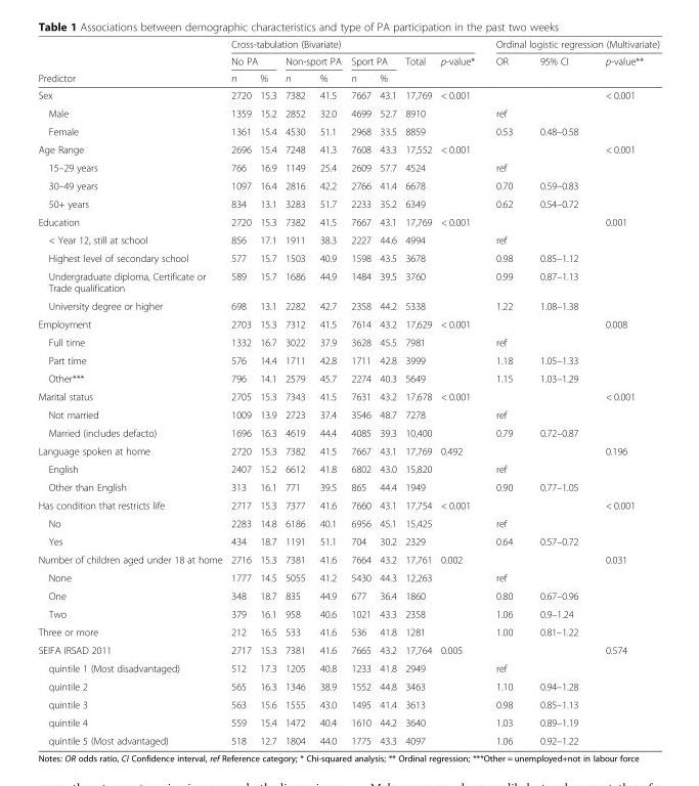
<table><thead><tr><td rowspan="3">Predictor</td><td colspan="8">Cross-tabulation (Bivariate)</td><td colspan="3">Ordinal logistic regression (Multivariate)</td></tr><tr><td colspan="2">No PA</td><td colspan="2">Non-sport PA</td><td colspan="2">Sport PA</td><td rowspan="2">Total</td><td rowspan="2">p-value*</td><td rowspan="2">OR</td><td rowspan="2">95% CI</td><td rowspan="2">p-value**</td></tr><tr><td>n</td><td>%</td><td>n</td><td>%</td><td>n</td><td>%</td></tr></thead><tbody><tr><td>Sex</td><td>2720</td><td>15.3</td><td>7382</td><td>41.5</td><td>7667</td><td>43.1</td><td>17,769</td><td>&lt; 0.001</td><td></td><td></td><td>&lt; 0.001</td></tr><tr><td>Male</td><td>1359</td><td>15.2</td><td>2852</td><td>32.0</td><td>4699</td><td>52.7</td><td>8910</td><td></td><td>ref</td><td></td><td></td></tr><tr><td>Female</td><td>1361</td><td>15.4</td><td>4530</td><td>51.1</td><td>2968</td><td>33.5</td><td>8859</td><td></td><td>0.53</td><td>0.48–0.58</td><td></td></tr><tr><td>Age Range</td><td>2696</td><td>15.4</td><td>7248</td><td>41.3</td><td>7608</td><td>43.3</td><td>17,552</td><td>&lt; 0.001</td><td></td><td></td><td>&lt; 0.001</td></tr><tr><td>15–29 years</td><td>766</td><td>16.9</td><td>1149</td><td>25.4</td><td>2609</td><td>57.7</td><td>4524</td><td></td><td>ref</td><td></td><td></td></tr><tr><td>30–49 years</td><td>1097</td><td>16.4</td><td>2816</td><td>42.2</td><td>2766</td><td>41.4</td><td>6678</td><td></td><td>0.70</td><td>0.59–0.83</td><td></td></tr><tr><td>50+ years</td><td>834</td><td>13.1</td><td>3283</td><td>51.7</td><td>2233</td><td>35.2</td><td>6349</td><td></td><td>0.62</td><td>0.54–0.72</td><td></td></tr><tr><td>Education</td><td>2720</td><td>15.3</td><td>7382</td><td>41.5</td><td>7667</td><td>43.1</td><td>17,769</td><td>&lt; 0.001</td><td></td><td></td><td>0.001</td></tr><tr><td>&lt; Year 12, still at school</td><td>856</td><td>17.1</td><td>1911</td><td>38.3</td><td>2227</td><td>44.6</td><td>4994</td><td></td><td>ref</td><td></td><td></td></tr><tr><td>Highest level of secondary school</td><td>577</td><td>15.7</td><td>1503</td><td>40.9</td><td>1598</td><td>43.5</td><td>3678</td><td></td><td>0.98</td><td>0.85–1.12</td><td></td></tr><tr><td>Undergraduate diploma, Certificate or Trade qualification</td><td>589</td><td>15.7</td><td>1686</td><td>44.9</td><td>1484</td><td>39.5</td><td>3760</td><td></td><td>0.99</td><td>0.87–1.13</td><td></td></tr><tr><td>University degree or higher</td><td>698</td><td>13.1</td><td>2282</td><td>42.7</td><td>2358</td><td>44.2</td><td>5338</td><td></td><td>1.22</td><td>1.08–1.38</td><td></td></tr><tr><td>Employment</td><td>2703</td><td>15.3</td><td>7312</td><td>41.5</td><td>7614</td><td>43.2</td><td>17,629</td><td>&lt; 0.001</td><td></td><td></td><td>0.008</td></tr><tr><td>Full time</td><td>1332</td><td>16.7</td><td>3022</td><td>37.9</td><td>3628</td><td>45.5</td><td>7981</td><td></td><td>ref</td><td></td><td></td></tr><tr><td>Part time</td><td>576</td><td>14.4</td><td>1711</td><td>42.8</td><td>1711</td><td>42.8</td><td>3999</td><td></td><td>1.18</td><td>1.05–1.33</td><td></td></tr><tr><td>Other***</td><td>796</td><td>14.1</td><td>2579</td><td>45.7</td><td>2274</td><td>40.3</td><td>5649</td><td></td><td>1.15</td><td>1.03–1.29</td><td></td></tr><tr><td>Marital status</td><td>2705</td><td>15.3</td><td>7343</td><td>41.5</td><td>7631</td><td>43.2</td><td>17,678</td><td>&lt; 0.001</td><td></td><td></td><td>&lt; 0.001</td></tr><tr><td>Not married</td><td>1009</td><td>13.9</td><td>2723</td><td>37.4</td><td>3546</td><td>48.7</td><td>7278</td><td></td><td>ref</td><td></td><td></td></tr><tr><td>Married (includes defacto)</td><td>1696</td><td>16.3</td><td>4619</td><td>44.4</td><td>4085</td><td>39.3</td><td>10,400</td><td></td><td>0.79</td><td>0.72–0.87</td><td></td></tr><tr><td>Language spoken at home</td><td>2720</td><td>15.3</td><td>7382</td><td>41.5</td><td>7667</td><td>43.1</td><td>17,769</td><td>0.492</td><td></td><td></td><td>0.196</td></tr><tr><td>English</td><td>2407</td><td>15.2</td><td>6612</td><td>41.8</td><td>6802</td><td>43.0</td><td>15,820</td><td></td><td>ref</td><td></td><td></td></tr><tr><td>Other than English</td><td>313</td><td>16.1</td><td>771</td><td>39.5</td><td>865</td><td>44.4</td><td>1949</td><td></td><td>0.90</td><td>0.77–1.05</td><td></td></tr><tr><td>Has condition that restricts life</td><td>2717</td><td>15.3</td><td>7377</td><td>41.6</td><td>7660</td><td>43.1</td><td>17,754</td><td>&lt; 0.001</td><td></td><td></td><td>&lt; 0.001</td></tr><tr><td>No</td><td>2283</td><td>14.8</td><td>6186</td><td>40.1</td><td>6956</td><td>45.1</td><td>15,425</td><td></td><td>ref</td><td></td><td></td></tr><tr><td>Yes</td><td>434</td><td>18.7</td><td>1191</td><td>51.1</td><td>704</td><td>30.2</td><td>2329</td><td></td><td>0.64</td><td>0.57–0.72</td><td></td></tr><tr><td>Number of children aged under 18 at home</td><td>2716</td><td>15.3</td><td>7381</td><td>41.6</td><td>7664</td><td>43.2</td><td>17,761</td><td>0.002</td><td></td><td></td><td>0.031</td></tr><tr><td>None</td><td>1777</td><td>14.5</td><td>5055</td><td>41.2</td><td>5430</td><td>44.3</td><td>12,263</td><td></td><td>ref</td><td></td><td></td></tr><tr><td>One</td><td>348</td><td>18.7</td><td>835</td><td>44.9</td><td>677</td><td>36.4</td><td>1860</td><td></td><td>0.80</td><td>0.67–0.96</td><td></td></tr><tr><td>Two</td><td>379</td><td>16.1</td><td>958</td><td>40.6</td><td>1021</td><td>43.3</td><td>2358</td><td></td><td>1.06</td><td>0.9–1.24</td><td></td></tr><tr><td>Three or more</td><td>212</td><td>16.5</td><td>533</td><td>41.6</td><td>536</td><td>41.8</td><td>1281</td><td></td><td>1.00</td><td>0.81–1.22</td><td></td></tr><tr><td>SEIFA IRSAD 2011</td><td>2717</td><td>15.3</td><td>7381</td><td>41.6</td><td>7665</td><td>43.2</td><td>17,764</td><td>0.005</td><td></td><td></td><td>0.574</td></tr><tr><td>quintile 1 (Most disadvantaged)</td><td>512</td><td>17.3</td><td>1205</td><td>40.8</td><td>1233</td><td>41.8</td><td>2949</td><td></td><td>ref</td><td></td><td></td></tr><tr><td>quintile 2</td><td>565</td><td>16.3</td><td>1346</td><td>38.9</td><td>1552</td><td>44.8</td><td>3463</td><td></td><td>1.10</td><td>0.94–1.28</td><td></td></tr><tr><td>quintile 3</td><td>563</td><td>15.6</td><td>1555</td><td>43.0</td><td>1495</td><td>41.4</td><td>3613</td><td></td><td>0.98</td><td>0.85–1.13</td><td></td></tr><tr><td>quintile 4</td><td>559</td><td>15.4</td><td>1472</td><td>40.4</td><td>1610</td><td>44.2</td><td>3640</td><td></td><td>1.03</td><td>0.89–1.19</td><td></td></tr><tr><td>quintile 5 (Most advantaged)</td><td>518</td><td>12.7</td><td>1804</td><td>44.0</td><td>1775</td><td>43.3</td><td>4097</td><td></td><td>1.06</td><td>0.92–1.22</td><td></td></tr></tbody></table>